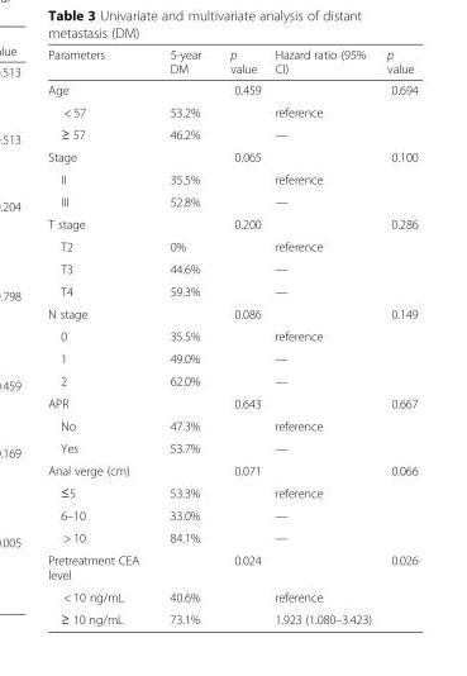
<table><thead><tr><td>Parameters</td><td>5-year DM</td><td>p value</td><td>Hazard ratio (95% CI)</td><td>p value</td></tr></thead><tbody><tr><td>Age</td><td></td><td>0.459</td><td></td><td>0.694</td></tr><tr><td>&lt; 57</td><td>53.2%</td><td></td><td>reference</td><td></td></tr><tr><td>≥ 57</td><td>46.2%</td><td></td><td>—</td><td></td></tr><tr><td>Stage</td><td></td><td>0.065</td><td></td><td>0.100</td></tr><tr><td>II</td><td>35.5%</td><td></td><td>reference</td><td></td></tr><tr><td>III</td><td>52.8%</td><td></td><td>—</td><td></td></tr><tr><td>T stage</td><td></td><td>0.200</td><td></td><td>0.286</td></tr><tr><td>T2</td><td>0%</td><td></td><td>reference</td><td></td></tr><tr><td>T3</td><td>44.6%</td><td></td><td>—</td><td></td></tr><tr><td>T4</td><td>59.3%</td><td></td><td>—</td><td></td></tr><tr><td>N stage</td><td></td><td>0.086</td><td></td><td>0.149</td></tr><tr><td>0</td><td>35.5%</td><td></td><td>reference</td><td></td></tr><tr><td>1</td><td>49.0%</td><td></td><td>—</td><td></td></tr><tr><td>2</td><td>62.0%</td><td></td><td>—</td><td></td></tr><tr><td>APR</td><td></td><td>0.643</td><td></td><td>0.667</td></tr><tr><td>No</td><td>47.3%</td><td></td><td>reference</td><td></td></tr><tr><td>Yes</td><td>53.7%</td><td></td><td>—</td><td></td></tr><tr><td>Anal verge (cm)</td><td></td><td>0.071</td><td></td><td>0.066</td></tr><tr><td>≤5</td><td>53.3%</td><td></td><td>reference</td><td></td></tr><tr><td>6–10</td><td>33.0%</td><td></td><td>—</td><td></td></tr><tr><td>&gt; 10</td><td>84.1%</td><td></td><td>—</td><td></td></tr><tr><td>Pretreatment CEA level</td><td></td><td>0.024</td><td></td><td>0.026</td></tr><tr><td>&lt; 10 ng/mL</td><td>40.6%</td><td></td><td>reference</td><td></td></tr><tr><td>≥ 10 ng/mL</td><td>73.1%</td><td></td><td>1.923 (1.080–3.423)</td><td></td></tr></tbody></table>